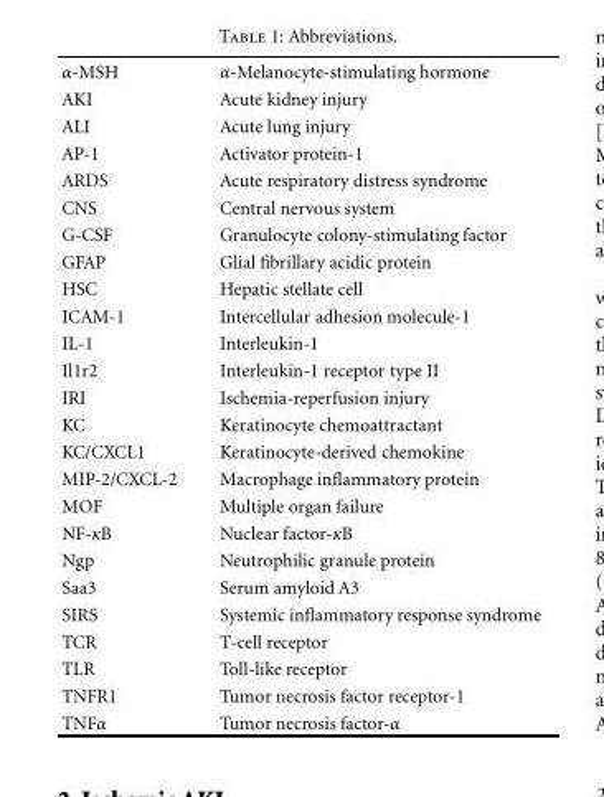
<table><tbody><tr><td>α-MSH</td><td>α-Melanocyte-stimulating hormone</td></tr><tr><td>AKI</td><td>Acute kidney injury</td></tr><tr><td>ALI</td><td>Acute lung injury</td></tr><tr><td>AP-1</td><td>Activator protein-1</td></tr><tr><td>ARDS</td><td>Acute respiratory distress syndrome</td></tr><tr><td>CNS</td><td>Central nervous system</td></tr><tr><td>G-CSF</td><td>Granulocyte colony-stimulating factor</td></tr><tr><td>GFAP</td><td>Glial fibrillary acidic protein</td></tr><tr><td>HSC</td><td>Hepatic stellate cell</td></tr><tr><td>ICAM-1</td><td>Intercellular adhesion molecule-1</td></tr><tr><td>IL-1</td><td>Interleukin-1</td></tr><tr><td>Il1r2</td><td>Interleukin-1 receptor type II</td></tr><tr><td>IRI</td><td>Ischemia-reperfusion injury</td></tr><tr><td>KC</td><td>Keratinocyte chemoattractant</td></tr><tr><td>KC/CXCL1</td><td>Keratinocyte-derived chemokine</td></tr><tr><td>MIP-2/CXCL-2</td><td>Macrophage inflammatory protein</td></tr><tr><td>MOF</td><td>Multiple organ failure</td></tr><tr><td>NF-κB</td><td>Nuclear factor-κB</td></tr><tr><td>Ngp</td><td>Neutrophilic granule protein</td></tr><tr><td>Saa3</td><td>Serum amyloid A3</td></tr><tr><td>SIRS</td><td>Systemic inflammatory response syndrome</td></tr><tr><td>TCR</td><td>T-cell receptor</td></tr><tr><td>TLR</td><td>Toll-like receptor</td></tr><tr><td>TNFR1</td><td>Tumor necrosis factor receptor-1</td></tr><tr><td>TNFα</td><td>Tumor necrosis factor-α</td></tr></tbody></table>